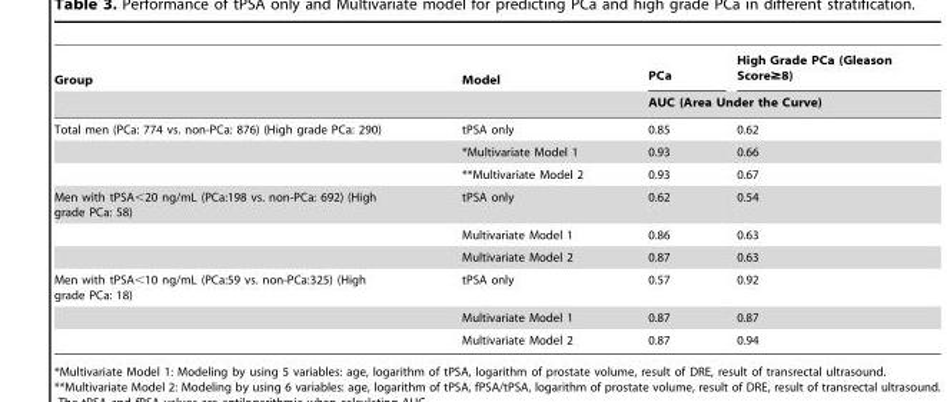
<table><thead><tr><td rowspan="2">Group</td><td rowspan="2">Model</td><td>PCa</td><td>High Grade PCa (Gleason Score≥8)</td></tr><tr><td colspan="2">AUC (Area Under the Curve)</td></tr></thead><tbody><tr><td rowspan="3">Total men (PCa: 774 vs. non-PCa: 876) (High grade PCa: 290)</td><td>tPSA only</td><td>0.85</td><td>0.62</td></tr><tr><td>*Multivariate Model 1</td><td>0.93</td><td>0.66</td></tr><tr><td>**Multivariate Model 2</td><td>0.93</td><td>0.67</td></tr><tr><td rowspan="3">Men with tPSA&lt;20 ng/mL (PCa:198 vs. non-PCa: 692) (High grade PCa: 58)</td><td>tPSA only</td><td>0.62</td><td>0.54</td></tr><tr><td>Multivariate Model 1</td><td>0.86</td><td>0.63</td></tr><tr><td>Multivariate Model 2</td><td>0.87</td><td>0.63</td></tr><tr><td rowspan="3">Men with tPSA&lt;10 ng/mL (PCa:59 vs. non-PCa:325) (High grade PCa: 18)</td><td>tPSA only</td><td>0.57</td><td>0.92</td></tr><tr><td>Multivariate Model 1</td><td>0.87</td><td>0.87</td></tr><tr><td>Multivariate Model 2</td><td>0.87</td><td>0.94</td></tr></tbody></table>